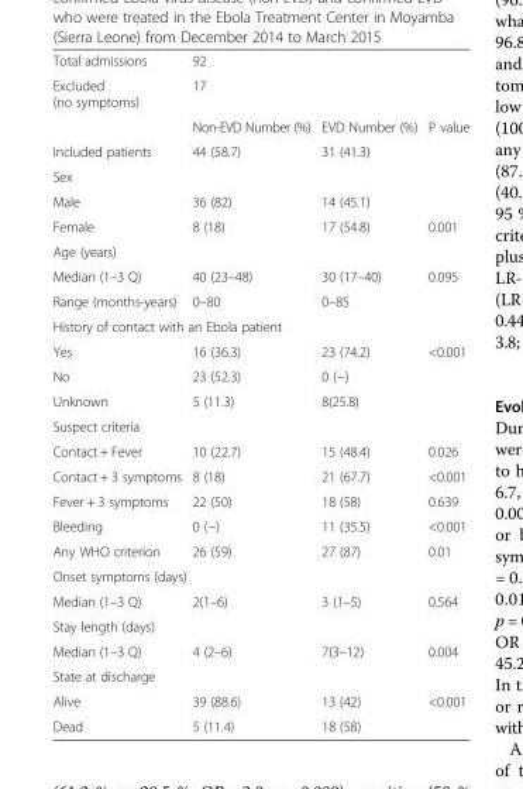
<table><tbody><tr><td>Total admissions</td><td colspan="3">92</td></tr><tr><td rowspan="2">Excluded (no symptoms)</td><td colspan="3">17</td></tr><tr><td>Non-EVD Number (%)</td><td>EVD Number (%)</td><td>P value</td></tr><tr><td>Included patients</td><td>44 (58.7)</td><td>31 (41.3)</td><td></td></tr><tr><td colspan="4">Sex</td></tr><tr><td>Male</td><td>36 (82)</td><td>14 (45.1)</td><td></td></tr><tr><td>Female</td><td>8 (18)</td><td>17 (54.8)</td><td>0.001</td></tr><tr><td colspan="4">Age (years)</td></tr><tr><td>Median (1–3 Q)</td><td>40 (23–48)</td><td>30 (17–40)</td><td>0.095</td></tr><tr><td>Range (months-years)</td><td>0–80</td><td>0–85</td><td></td></tr><tr><td colspan="4">History of contact with an Ebola patient</td></tr><tr><td>Yes</td><td>16 (36.3)</td><td>23 (74.2)</td><td>&lt;0.001</td></tr><tr><td>No</td><td>23 (52.3)</td><td>0 (−)</td><td></td></tr><tr><td>Unknown</td><td>5 (11.3)</td><td>8(25.8)</td><td></td></tr><tr><td colspan="4">Suspect criteria</td></tr><tr><td>Contact + Fever</td><td>10 (22.7)</td><td>15 (48.4)</td><td>0.026</td></tr><tr><td>Contact + 3 symptoms</td><td>8 (18)</td><td>21 (67.7)</td><td>&lt;0.001</td></tr><tr><td>Fever + 3 symptoms</td><td>22 (50)</td><td>18 (58)</td><td>0.639</td></tr><tr><td>Bleeding</td><td>0 (−)</td><td>11 (35.5)</td><td>&lt;0.001</td></tr><tr><td>Any WHO criterion</td><td>26 (59)</td><td>27 (87)</td><td>0.01</td></tr><tr><td colspan="4">Onset symptoms (days)</td></tr><tr><td>Median (1–3 Q)</td><td>2(1–6)</td><td>3 (1–5)</td><td>0.564</td></tr><tr><td colspan="4">Stay length (days)</td></tr><tr><td>Median (1–3 Q)</td><td>4 (2–6)</td><td>7(3–12)</td><td>0.004</td></tr><tr><td colspan="4">State at discharge</td></tr><tr><td>Alive</td><td>39 (88.6)</td><td>13 (42)</td><td>&lt;0.001</td></tr><tr><td>Dead</td><td>5 (11.4)</td><td>18 (58)</td><td></td></tr></tbody></table>